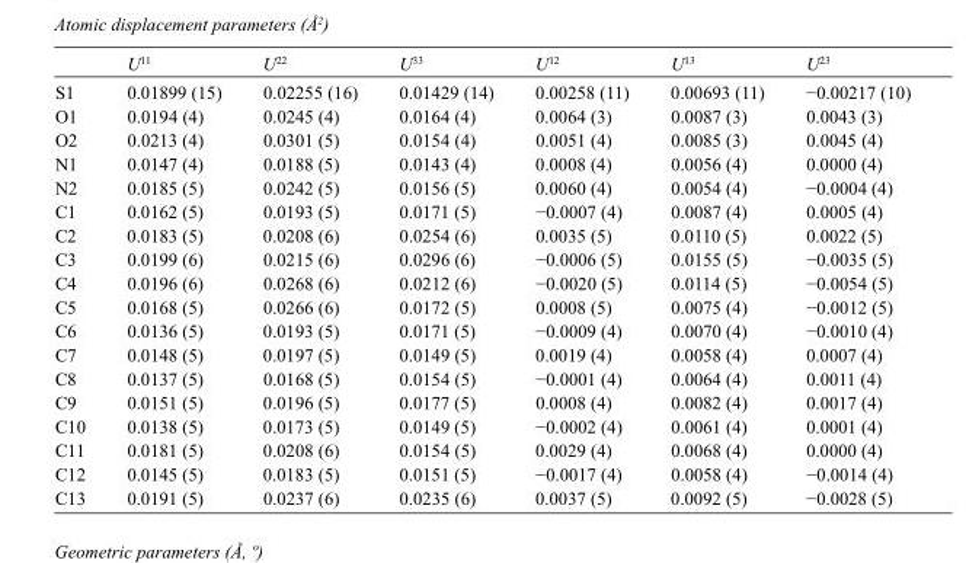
<table><thead><tr><td></td><td>U<sup>11</sup></td><td>U<sup>22</sup></td><td>U<sup>33</sup></td><td>U<sup>12</sup></td><td>U<sup>13</sup></td><td>U<sup>23</sup></td></tr></thead><tbody><tr><td>S1</td><td>0.01899 (15)</td><td>0.02255 (16)</td><td>0.01429 (14)</td><td>0.00258 (11)</td><td>0.00693 (11)</td><td>−0.00217 (10)</td></tr><tr><td>O1</td><td>0.0194 (4)</td><td>0.0245 (4)</td><td>0.0164 (4)</td><td>0.0064 (3)</td><td>0.0087 (3)</td><td>0.0043 (3)</td></tr><tr><td>O2</td><td>0.0213 (4)</td><td>0.0301 (5)</td><td>0.0154 (4)</td><td>0.0051 (4)</td><td>0.0085 (3)</td><td>0.0045 (4)</td></tr><tr><td>N1</td><td>0.0147 (4)</td><td>0.0188 (5)</td><td>0.0143 (4)</td><td>0.0008 (4)</td><td>0.0056 (4)</td><td>0.0000 (4)</td></tr><tr><td>N2</td><td>0.0185 (5)</td><td>0.0242 (5)</td><td>0.0156 (5)</td><td>0.0060 (4)</td><td>0.0054 (4)</td><td>−0.0004 (4)</td></tr><tr><td>C1</td><td>0.0162 (5)</td><td>0.0193 (5)</td><td>0.0171 (5)</td><td>−0.0007 (4)</td><td>0.0087 (4)</td><td>0.0005 (4)</td></tr><tr><td>C2</td><td>0.0183 (5)</td><td>0.0208 (6)</td><td>0.0254 (6)</td><td>0.0035 (5)</td><td>0.0110 (5)</td><td>0.0022 (5)</td></tr><tr><td>C3</td><td>0.0199 (6)</td><td>0.0215 (6)</td><td>0.0296 (6)</td><td>−0.0006 (5)</td><td>0.0155 (5)</td><td>−0.0035 (5)</td></tr><tr><td>C4</td><td>0.0196 (6)</td><td>0.0268 (6)</td><td>0.0212 (6)</td><td>−0.0020 (5)</td><td>0.0114 (5)</td><td>−0.0054 (5)</td></tr><tr><td>C5</td><td>0.0168 (5)</td><td>0.0266 (6)</td><td>0.0172 (5)</td><td>0.0008 (5)</td><td>0.0075 (4)</td><td>−0.0012 (5)</td></tr><tr><td>C6</td><td>0.0136 (5)</td><td>0.0193 (5)</td><td>0.0171 (5)</td><td>−0.0009 (4)</td><td>0.0070 (4)</td><td>−0.0010 (4)</td></tr><tr><td>C7</td><td>0.0148 (5)</td><td>0.0197 (5)</td><td>0.0149 (5)</td><td>0.0019 (4)</td><td>0.0058 (4)</td><td>0.0007 (4)</td></tr><tr><td>C8</td><td>0.0137 (5)</td><td>0.0168 (5)</td><td>0.0154 (5)</td><td>−0.0001 (4)</td><td>0.0064 (4)</td><td>0.0011 (4)</td></tr><tr><td>C9</td><td>0.0151 (5)</td><td>0.0196 (5)</td><td>0.0177 (5)</td><td>0.0008 (4)</td><td>0.0082 (4)</td><td>0.0017 (4)</td></tr><tr><td>C10</td><td>0.0138 (5)</td><td>0.0173 (5)</td><td>0.0149 (5)</td><td>−0.0002 (4)</td><td>0.0061 (4)</td><td>0.0001 (4)</td></tr><tr><td>C11</td><td>0.0181 (5)</td><td>0.0208 (6)</td><td>0.0154 (5)</td><td>0.0029 (4)</td><td>0.0068 (4)</td><td>0.0000 (4)</td></tr><tr><td>C12</td><td>0.0145 (5)</td><td>0.0183 (5)</td><td>0.0151 (5)</td><td>−0.0017 (4)</td><td>0.0058 (4)</td><td>−0.0014 (4)</td></tr><tr><td>C13</td><td>0.0191 (5)</td><td>0.0237 (6)</td><td>0.0235 (6)</td><td>0.0037 (5)</td><td>0.0092 (5)</td><td>−0.0028 (5)</td></tr></tbody></table>